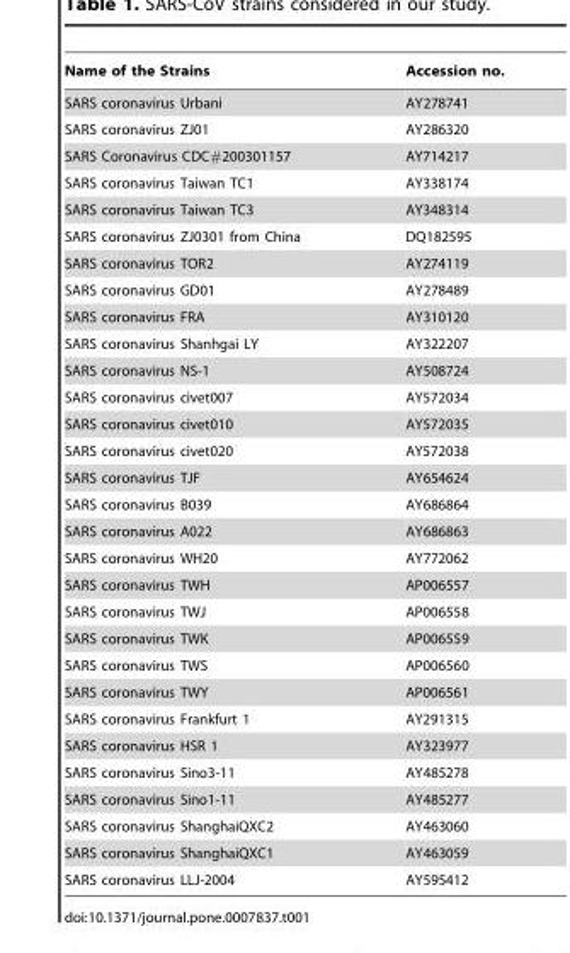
<table><thead><tr><td>Name of the Strains</td><td>Accession no.</td></tr></thead><tbody><tr><td>SARS coronavirus Urbani</td><td>AY278741</td></tr><tr><td>SARS coronavirus ZJ01</td><td>AY286320</td></tr><tr><td>SARS Coronavirus CDC#200301157</td><td>AY714217</td></tr><tr><td>SARS coronavirus Taiwan TC1</td><td>AY338174</td></tr><tr><td>SARS coronavirus Taiwan TC3</td><td>AY348314</td></tr><tr><td>SARS coronavirus ZJ0301 from China</td><td>DQ182595</td></tr><tr><td>SARS coronavirus TOR2</td><td>AY274119</td></tr><tr><td>SARS coronavirus GD01</td><td>AY278489</td></tr><tr><td>SARS coronavirus FRA</td><td>AY310120</td></tr><tr><td>SARS coronavirus Shanhgai LY</td><td>AY322207</td></tr><tr><td>SARS coronavirus NS-1</td><td>AY508724</td></tr><tr><td>SARS coronavirus civet007</td><td>AY572034</td></tr><tr><td>SARS coronavirus civet010</td><td>AY572035</td></tr><tr><td>SARS coronavirus civet020</td><td>AY572038</td></tr><tr><td>SARS coronavirus TJF</td><td>AY654624</td></tr><tr><td>SARS coronavirus B039</td><td>AY686864</td></tr><tr><td>SARS coronavirus A022</td><td>AY686863</td></tr><tr><td>SARS coronavirus WH20</td><td>AY772062</td></tr><tr><td>SARS coronavirus TWH</td><td>AP006557</td></tr><tr><td>SARS coronavirus TWJ</td><td>AP006558</td></tr><tr><td>SARS coronavirus TWK</td><td>AP006559</td></tr><tr><td>SARS coronavirus TWS</td><td>AP006560</td></tr><tr><td>SARS coronavirus TWY</td><td>AP006561</td></tr><tr><td>SARS coronavirus Frankfurt 1</td><td>AY291315</td></tr><tr><td>SARS coronavirus HSR 1</td><td>AY323977</td></tr><tr><td>SARS coronavirus Sino3-11</td><td>AY485278</td></tr><tr><td>SARS coronavirus Sino1-11</td><td>AY485277</td></tr><tr><td>SARS coronavirus ShanghaiQXC2</td><td>AY463060</td></tr><tr><td>SARS coronavirus ShanghaiQXC1</td><td>AY463059</td></tr><tr><td>SARS coronavirus LLJ-2004</td><td>AY595412</td></tr></tbody></table>